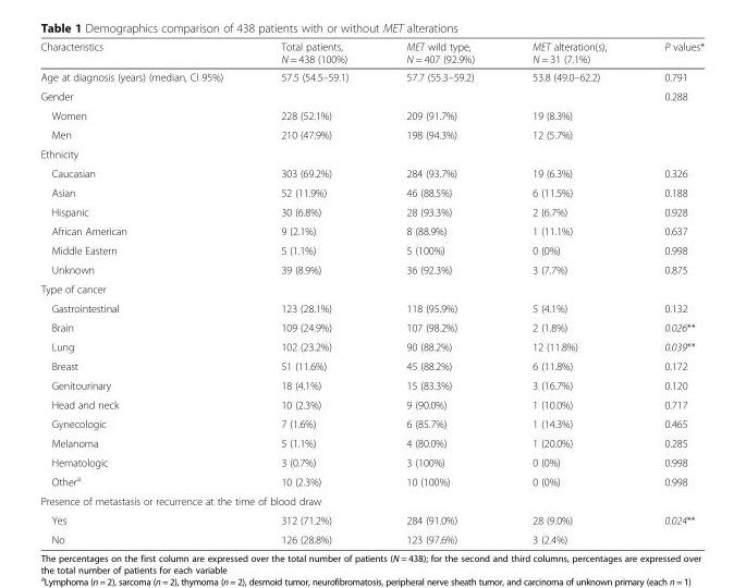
<table><thead><tr><td>Characteristics</td><td>Total patients, N = 438 (100%)</td><td>MET wild type, N = 407 (92.9%)</td><td>MET alteration(s), N = 31 (7.1%)</td><td>P values*</td></tr></thead><tbody><tr><td>Age at diagnosis (years) (median, CI 95%)</td><td>57.5 (54.5–59.1)</td><td>57.7 (55.3–59.2)</td><td>53.8 (49.0–62.2)</td><td>0.791</td></tr><tr><td>Gender</td><td></td><td></td><td></td><td>0.288</td></tr><tr><td>Women</td><td>228 (52.1%)</td><td>209 (91.7%)</td><td>19 (8.3%)</td><td></td></tr><tr><td>Men</td><td>210 (47.9%)</td><td>198 (94.3%)</td><td>12 (5.7%)</td><td></td></tr><tr><td colspan="5">Ethnicity</td></tr><tr><td>Caucasian</td><td>303 (69.2%)</td><td>284 (93.7%)</td><td>19 (6.3%)</td><td>0.326</td></tr><tr><td>Asian</td><td>52 (11.9%)</td><td>46 (88.5%)</td><td>6 (11.5%)</td><td>0.188</td></tr><tr><td>Hispanic</td><td>30 (6.8%)</td><td>28 (93.3%)</td><td>2 (6.7%)</td><td>0.928</td></tr><tr><td>African American</td><td>9 (2.1%)</td><td>8 (88.9%)</td><td>1 (11.1%)</td><td>0.637</td></tr><tr><td>Middle Eastern</td><td>5 (1.1%)</td><td>5 (100%)</td><td>0 (0%)</td><td>0.998</td></tr><tr><td>Unknown</td><td>39 (8.9%)</td><td>36 (92.3%)</td><td>3 (7.7%)</td><td>0.875</td></tr><tr><td colspan="5">Type of cancer</td></tr><tr><td>Gastrointestinal</td><td>123 (28.1%)</td><td>118 (95.9%)</td><td>5 (4.1%)</td><td>0.132</td></tr><tr><td>Brain</td><td>109 (24.9%)</td><td>107 (98.2%)</td><td>2 (1.8%)</td><td>0.026**</td></tr><tr><td>Lung</td><td>102 (23.2%)</td><td>90 (88.2%)</td><td>12 (11.8%)</td><td>0.039**</td></tr><tr><td>Breast</td><td>51 (11.6%)</td><td>45 (88.2%)</td><td>6 (11.8%)</td><td>0.172</td></tr><tr><td>Genitourinary</td><td>18 (4.1%)</td><td>15 (83.3%)</td><td>3 (16.7%)</td><td>0.120</td></tr><tr><td>Head and neck</td><td>10 (2.3%)</td><td>9 (90.0%)</td><td>1 (10.0%)</td><td>0.717</td></tr><tr><td>Gynecologic</td><td>7 (1.6%)</td><td>6 (85.7%)</td><td>1 (14.3%)</td><td>0.465</td></tr><tr><td>Melanoma</td><td>5 (1.1%)</td><td>4 (80.0%)</td><td>1 (20.0%)</td><td>0.285</td></tr><tr><td>Hematologic</td><td>3 (0.7%)</td><td>3 (100%)</td><td>0 (0%)</td><td>0.998</td></tr><tr><td>Other<sup>a</sup></td><td>10 (2.3%)</td><td>10 (100%)</td><td>0 (0%)</td><td>0.998</td></tr><tr><td colspan="5">Presence of metastasis or recurrence at the time of blood draw</td></tr><tr><td>Yes</td><td>312 (71.2%)</td><td>284 (91.0%)</td><td>28 (9.0%)</td><td>0.024**</td></tr><tr><td>No</td><td>126 (28.8%)</td><td>123 (97.6%)</td><td>3 (2.4%)</td><td></td></tr></tbody></table>